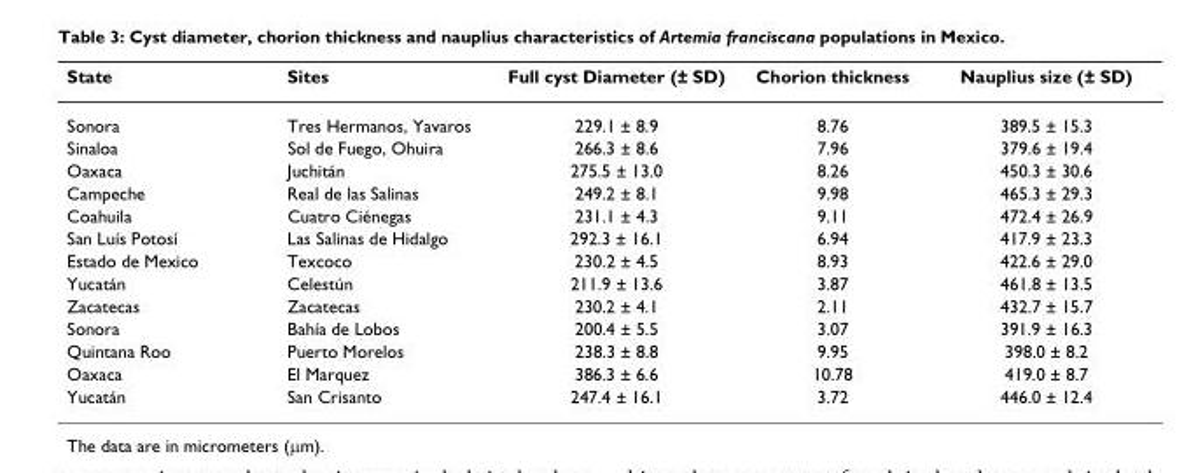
<table><thead><tr><td>State</td><td>Sites</td><td>Full cyst Diameter (± SD)</td><td>Chorion thickness</td><td>Nauplius size (± SD)</td></tr></thead><tbody><tr><td>Sonora</td><td>Tres Hermanos, Yavaros</td><td>229.1 ± 8.9</td><td>8.76</td><td>389.5 ± 15.3</td></tr><tr><td>Sinaloa</td><td>Sol de Fuego, Ohuira</td><td>266.3 ± 8.6</td><td>7.96</td><td>379.6 ± 19.4</td></tr><tr><td>Oaxaca</td><td>Juchitán</td><td>275.5 ± 13.0</td><td>8.26</td><td>450.3 ± 30.6</td></tr><tr><td>Campeche</td><td>Real de las Salinas</td><td>249.2 ± 8.1</td><td>9.98</td><td>465.3 ± 29.3</td></tr><tr><td>Coahuila</td><td>Cuatro Ciénegas</td><td>231.1 ± 4.3</td><td>9.11</td><td>472.4 ± 26.9</td></tr><tr><td>San Luís Potosí</td><td>Las Salinas de Hidalgo</td><td>292.3 ± 16.1</td><td>6.94</td><td>417.9 ± 23.3</td></tr><tr><td>Estado de Mexico</td><td>Texcoco</td><td>230.2 ± 4.5</td><td>8.93</td><td>422.6 ± 29.0</td></tr><tr><td>Yucatán</td><td>Celestún</td><td>211.9 ± 13.6</td><td>3.87</td><td>461.8 ± 13.5</td></tr><tr><td>Zacatecas</td><td>Zacatecas</td><td>230.2 ± 4.1</td><td>2.11</td><td>432.7 ± 15.7</td></tr><tr><td>Sonora</td><td>Bahía de Lobos</td><td>200.4 ± 5.5</td><td>3.07</td><td>391.9 ± 16.3</td></tr><tr><td>Quintana Roo</td><td>Puerto Morelos</td><td>238.3 ± 8.8</td><td>9.95</td><td>398.0 ± 8.2</td></tr><tr><td>Oaxaca</td><td>El Marquez</td><td>386.3 ± 6.6</td><td>10.78</td><td>419.0 ± 8.7</td></tr><tr><td>Yucatán</td><td>San Crisanto</td><td>247.4 ± 16.1</td><td>3.72</td><td>446.0 ± 12.4</td></tr></tbody></table>